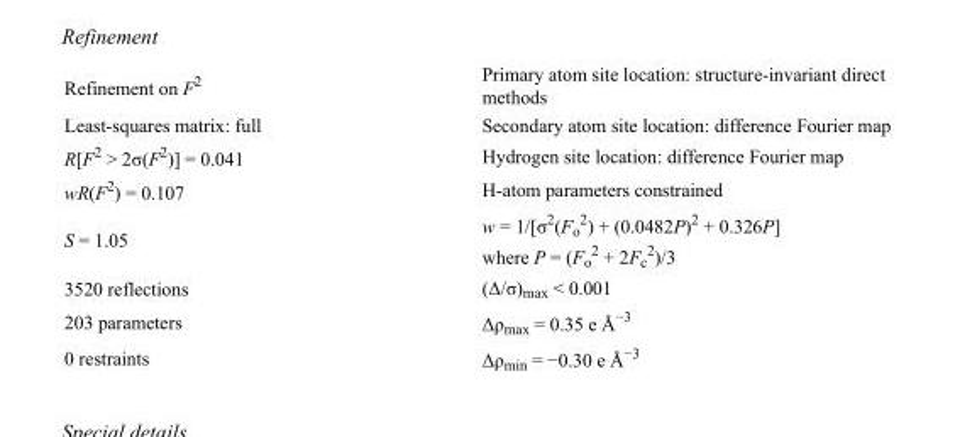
<table><tbody><tr><td>Refinement on F<sup>2</sup></td><td>Primary atom site location: structure-invariant direct methods</td></tr><tr><td>Least-squares matrix: full</td><td>Secondary atom site location: difference Fourier map</td></tr><tr><td>R[F<sup>2</sup> &gt; 2σ(F<sup>2</sup>)] = 0.041</td><td>Hydrogen site location: difference Fourier map</td></tr><tr><td>wR(F<sup>2</sup>) = 0.107</td><td>H-atom parameters constrained</td></tr><tr><td>S = 1.05</td><td>w = 1/[σ<sup>2</sup>(F<sub>o</sub> <sup>2</sup>) + (0.0482P)<sup>2</sup> + 0.326P] where P = (F<sub>o</sub> <sup>2</sup> + 2F<sub>c</sub> <sup>2</sup>)/3</td></tr><tr><td>3520 reflections</td><td>(Δ/σ)<sub>max</sub> &lt; 0.001</td></tr><tr><td>203 parameters</td><td>Δρ<sub>max</sub> = 0.35 e Å<sup>−3</sup></td></tr><tr><td>0 restraints</td><td>Δρ<sub>min</sub> = −0.30 e Å<sup>−3</sup></td></tr></tbody></table>